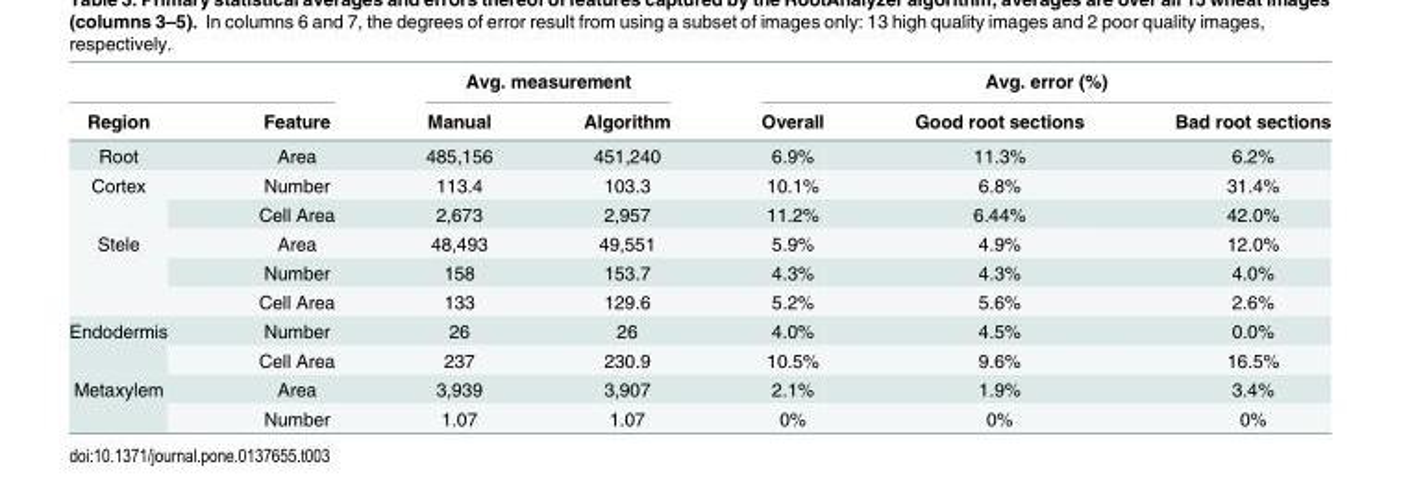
<table><thead><tr><td rowspan="2">Region</td><td rowspan="2">Feature</td><td colspan="2">Avg. measurement</td><td colspan="3">Avg. error (%)</td></tr><tr><td>Manual</td><td>Algorithm</td><td>Overall</td><td>Good root sections</td><td>Bad root sections</td></tr></thead><tbody><tr><td>Root</td><td>Area</td><td>485,156</td><td>451,240</td><td>6.9%</td><td>11.3%</td><td>6.2%</td></tr><tr><td rowspan="2">Cortex</td><td>Number</td><td>113.4</td><td>103.3</td><td>10.1%</td><td>6.8%</td><td>31.4%</td></tr><tr><td>Cell Area</td><td>2,673</td><td>2,957</td><td>11.2%</td><td>6.44%</td><td>42.0%</td></tr><tr><td rowspan="3">Stele</td><td>Area</td><td>48,493</td><td>49,551</td><td>5.9%</td><td>4.9%</td><td>12.0%</td></tr><tr><td>Number</td><td>158</td><td>153.7</td><td>4.3%</td><td>4.3%</td><td>4.0%</td></tr><tr><td>Cell Area</td><td>133</td><td>129.6</td><td>5.2%</td><td>5.6%</td><td>2.6%</td></tr><tr><td rowspan="2">Endodermis</td><td>Number</td><td>26</td><td>26</td><td>4.0%</td><td>4.5%</td><td>0.0%</td></tr><tr><td>Cell Area</td><td>237</td><td>230.9</td><td>10.5%</td><td>9.6%</td><td>16.5%</td></tr><tr><td rowspan="2">Metaxylem</td><td>Area</td><td>3,939</td><td>3,907</td><td>2.1%</td><td>1.9%</td><td>3.4%</td></tr><tr><td>Number</td><td>1.07</td><td>1.07</td><td>0%</td><td>0%</td><td>0%</td></tr></tbody></table>